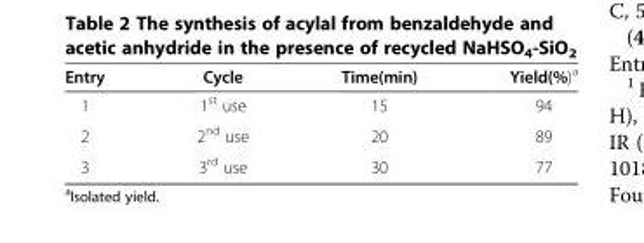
<table><thead><tr><td>Entry</td><td>Cycle</td><td>Time(min)</td><td>Yield(%)<sup>a</sup></td></tr></thead><tbody><tr><td>1</td><td>1<sup>st</sup> use</td><td>15</td><td>94</td></tr><tr><td>2</td><td>2<sup>nd</sup> use</td><td>20</td><td>89</td></tr><tr><td>3</td><td>3<sup>rd</sup> use</td><td>30</td><td>77</td></tr></tbody></table>